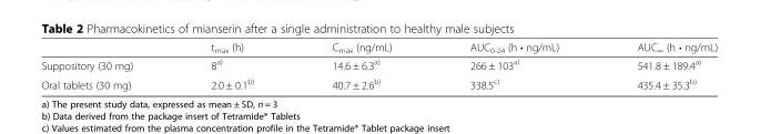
<table><thead><tr><td></td><td>t<sub>max</sub> (h)</td><td>C<sub>max</sub> (ng/mL)</td><td>AUC<sub>0-24</sub> (h • ng/mL)</td><td>AUC<sub>∞</sub> (h • ng/mL)</td></tr></thead><tbody><tr><td>Suppository (30 mg)</td><td>8<sup>a)</sup></td><td>14.6 ± 6.3<sup>a)</sup></td><td>266 ± 103<sup>a)</sup></td><td>541.8 ± 189.4<sup>a)</sup></td></tr><tr><td>Oral tablets (30 mg)</td><td>2.0 ± 0.1<sup>b)</sup></td><td>40.7 ± 2.6<sup>b)</sup></td><td>338.5<sup>c)</sup></td><td>435.4 ± 35.3<sup>b)</sup></td></tr></tbody></table>